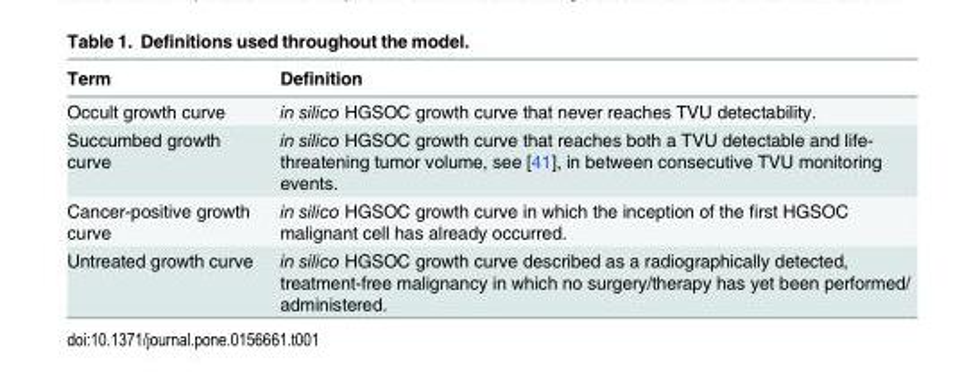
<table><thead><tr><td>Term</td><td>Definition</td></tr></thead><tbody><tr><td>Occult growth curve</td><td>in silico HGSOC growth curve that never reaches TVU detectability.</td></tr><tr><td>Succumbed growth curve</td><td>in silico HGSOC growth curve that reaches both a TVU detectable and life- threatening tumor volume, see [41], in between consecutive TVU monitoring events.</td></tr><tr><td>Cancer-positive growth curve</td><td>in silico HGSOC growth curve in which the inception of the first HGSOC malignant cell has already occurred.</td></tr><tr><td>Untreated growth curve</td><td>in silico HGSOC growth curve described as a radiographically detected, treatment-free malignancy in which no surgery/therapy has yet been performed/ administered.</td></tr></tbody></table>